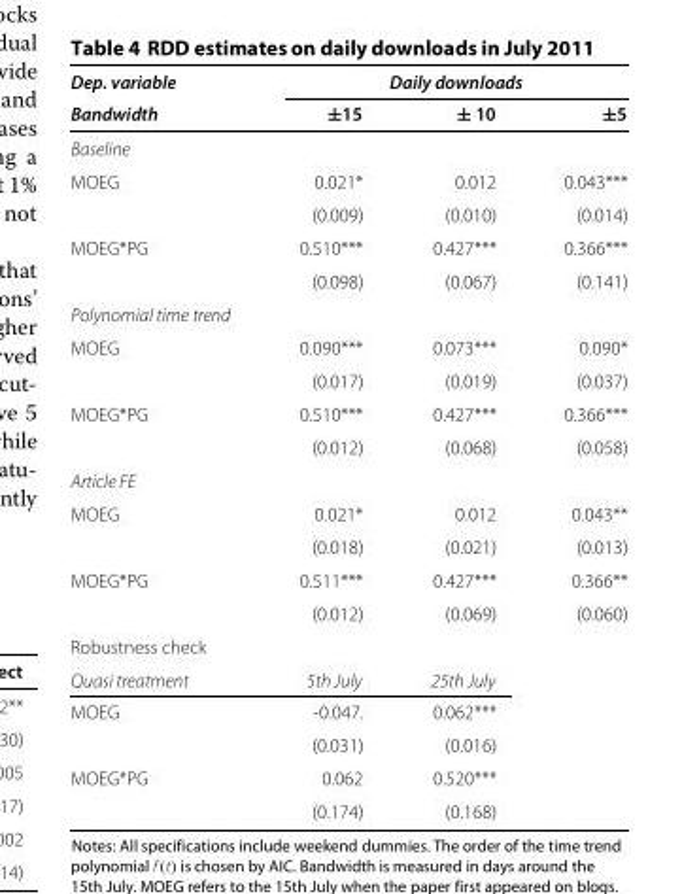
<table><thead><tr><td rowspan="2">Dep. variable Bandwidth</td><td rowspan="2">±15</td><td rowspan="2">Daily downloads ± 10</td><td rowspan="2">±5</td></tr><tr></tr></thead><tbody><tr><td colspan="4">Baseline</td></tr><tr><td rowspan="2">MOEG</td><td>0.021*</td><td>0.012</td><td>0.043***</td></tr><tr><td>(0.009)</td><td>(0.010)</td><td>(0.014)</td></tr><tr><td rowspan="2">MOEG*PG</td><td>0.510***</td><td>0.427***</td><td>0.366***</td></tr><tr><td>(0.098)</td><td>(0.067)</td><td>(0.141)</td></tr><tr><td colspan="4">Polynomial time trend</td></tr><tr><td rowspan="2">MOEG</td><td>0.090***</td><td>0.073***</td><td>0.090*</td></tr><tr><td>(0.017)</td><td>(0.019)</td><td>(0.037)</td></tr><tr><td rowspan="2">MOEG*PG</td><td>0.510***</td><td>0.427***</td><td>0.366***</td></tr><tr><td>(0.012)</td><td>(0.068)</td><td>(0.058)</td></tr><tr><td colspan="4">Article FE</td></tr><tr><td rowspan="2">MOEG</td><td>0.021*</td><td>0.012</td><td>0.043**</td></tr><tr><td>(0.018)</td><td>(0.021)</td><td>(0.013)</td></tr><tr><td rowspan="2">MOEG*PG</td><td>0.511***</td><td>0.427***</td><td>0.366**</td></tr><tr><td>(0.012)</td><td>(0.069)</td><td>(0.060)</td></tr><tr><td colspan="4">Robustness check</td></tr><tr><td>Quasi treatment</td><td>5th July</td><td>25th July</td><td></td></tr><tr><td rowspan="2">MOEG</td><td>-0.047.</td><td>0.062***</td><td></td></tr><tr><td>(0.031)</td><td>(0.016)</td><td></td></tr><tr><td rowspan="2">MOEG*PG</td><td>0.062</td><td>0.520***</td><td></td></tr><tr><td>(0.174)</td><td>(0.168)</td><td></td></tr></tbody></table>